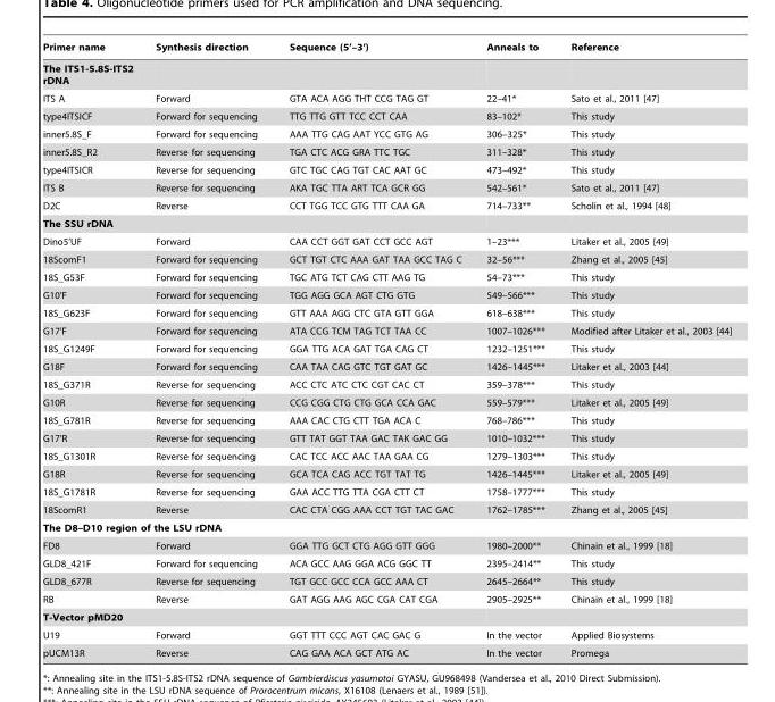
<table><thead><tr><td>Primer name</td><td>Synthesis direction</td><td>Sequence (5’–3’)</td><td>Anneals to</td><td>Reference</td></tr></thead><tbody><tr><td colspan="5">The ITS1-5.8S-ITS2 rDNA</td></tr><tr><td>ITS A</td><td>Forward</td><td>GTA ACA AGG THT CCG TAG GT</td><td>22–41*</td><td>Sato et al., 2011 [47]</td></tr><tr><td>type4ITSICF</td><td>Forward for sequencing</td><td>TTG TTG GTT TCC CCT CAA</td><td>83–102*</td><td>This study</td></tr><tr><td>inner5.8S_F</td><td>Forward for sequencing</td><td>AAA TTG CAG AAT YCC GTG AG</td><td>306–325*</td><td>This study</td></tr><tr><td>inner5.8S_R2</td><td>Reverse for sequencing</td><td>TGA CTC ACG GRA TTC TGC</td><td>311–328*</td><td>This study</td></tr><tr><td>type4ITSICR</td><td>Reverse for sequencing</td><td>GTC TGC CAG TGT CAC AAT GC</td><td>473–492*</td><td>This study</td></tr><tr><td>ITS B</td><td>Reverse for sequencing</td><td>AKA TGC TTA ART TCA GCR GG</td><td>542–561*</td><td>Sato et al., 2011 [47]</td></tr><tr><td>D2C</td><td>Reverse</td><td>CCT TGG TCC GTG TTT CAA GA</td><td>714–733**</td><td>Scholin et al., 1994 [48]</td></tr><tr><td colspan="5">The SSU rDNA</td></tr><tr><td>Dino5’UF</td><td>Forward</td><td>CAA CCT GGT GAT CCT GCC AGT</td><td>1–23***</td><td>Litaker et al., 2005 [49]</td></tr><tr><td>18ScomF1</td><td>Forward for sequencing</td><td>GCT TGT CTC AAA GAT TAA GCC TAG C</td><td>32–56***</td><td>Zhang et al., 2005 [45]</td></tr><tr><td>18S_G53F</td><td>Forward for sequencing</td><td>TGC ATG TCT CAG CTT AAG TG</td><td>54–73***</td><td>This study</td></tr><tr><td>G10’F</td><td>Forward for sequencing</td><td>TGG AGG GCA AGT CTG GTG</td><td>549–566***</td><td>This study</td></tr><tr><td>18S_G623F</td><td>Forward for sequencing</td><td>GTT AAA AGG CTC GTA GTT GGA</td><td>618–638***</td><td>This study</td></tr><tr><td>G17’F</td><td>Forward for sequencing</td><td>ATA CCG TCM TAG TCT TAA CC</td><td>1007–1026***</td><td>Modified after Litaker et al., 2003 [44]</td></tr><tr><td>18S_G1249F</td><td>Forward for sequencing</td><td>GGA TTG ACA GAT TGA CAG CT</td><td>1232–1251***</td><td>This study</td></tr><tr><td>G18F</td><td>Forward for sequencing</td><td>CAA TAA CAG GTC TGT GAT GC</td><td>1426–1445***</td><td>Litaker et al., 2003 [44]</td></tr><tr><td>18S_G371R</td><td>Reverse for sequencing</td><td>ACC CTC ATC CTC CGT CAC CT</td><td>359–378***</td><td>This study</td></tr><tr><td>G10R</td><td>Reverse for sequencing</td><td>CCG CGG CTG CTG GCA CCA GAC</td><td>559–579***</td><td>Litaker et al., 2005 [49]</td></tr><tr><td>18S_G781R</td><td>Reverse for sequencing</td><td>AAA CAC CTG CTT TGA ACA C</td><td>768–786***</td><td>This study</td></tr><tr><td>G17’R</td><td>Reverse for sequencing</td><td>GTT TAT GGT TAA GAC TAK GAC GG</td><td>1010–1032***</td><td>This study</td></tr><tr><td>18S_G1301R</td><td>Reverse for sequencing</td><td>CAC TCC ACC AAC TAA GAA CG</td><td>1279–1303***</td><td>This study</td></tr><tr><td>G18R</td><td>Reverse for sequencing</td><td>GCA TCA CAG ACC TGT TAT TG</td><td>1426–1445***</td><td>Litaker et al., 2005 [49]</td></tr><tr><td>18S_G1781R</td><td>Reverse for sequencing</td><td>GAA ACC TTG TTA CGA CTT CT</td><td>1758–1777***</td><td>This study</td></tr><tr><td>18ScomR1</td><td>Reverse</td><td>CAC CTA CGG AAA CCT TGT TAC GAC</td><td>1762–1785***</td><td>Zhang et al., 2005 [45]</td></tr><tr><td colspan="5">The D8–D10 region of the LSU rDNA</td></tr><tr><td>FD8</td><td>Forward</td><td>GGA TTG GCT CTG AGG GTT GGG</td><td>1980–2000**</td><td>Chinain et al., 1999 [18]</td></tr><tr><td>GLD8_421F</td><td>Forward for sequencing</td><td>ACA GCC AAG GGA ACG GGC TT</td><td>2395–2414**</td><td>This study</td></tr><tr><td>GLD8_677R</td><td>Reverse for sequencing</td><td>TGT GCC GCC CCA GCC AAA CT</td><td>2645–2664**</td><td>This study</td></tr><tr><td>RB</td><td>Reverse</td><td>GAT AGG AAG AGC CGA CAT CGA</td><td>2905–2925**</td><td>Chinain et al., 1999 [18]</td></tr><tr><td colspan="5">T-Vector pMD20</td></tr><tr><td>U19</td><td>Forward</td><td>GGT TTT CCC AGT CAC GAC G</td><td>In the vector</td><td>Applied Biosystems</td></tr><tr><td>pUCM13R</td><td>Reverse</td><td>CAG GAA ACA GCT ATG AC</td><td>In the vector</td><td>Promega</td></tr></tbody></table>